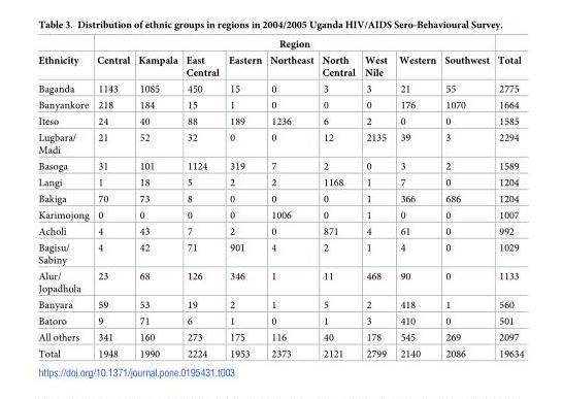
<table><thead><tr><td rowspan="2">Ethnicity</td><td colspan="9">Region</td><td rowspan="2">Total</td></tr><tr><td>Central</td><td>Kampala</td><td>East Central</td><td>Eastern</td><td>Northeast</td><td>North Central</td><td>West Nile</td><td>Western</td><td>Southwest</td></tr></thead><tbody><tr><td>Baganda</td><td>1143</td><td>1085</td><td>450</td><td>15</td><td>0</td><td>3</td><td>3</td><td>21</td><td>55</td><td>2775</td></tr><tr><td>Banyankore</td><td>218</td><td>184</td><td>15</td><td>1</td><td>0</td><td>0</td><td>0</td><td>176</td><td>1070</td><td>1664</td></tr><tr><td>Iteso</td><td>24</td><td>40</td><td>88</td><td>189</td><td>1236</td><td>6</td><td>2</td><td>0</td><td>0</td><td>1585</td></tr><tr><td>Lugbara/ Madi</td><td>21</td><td>52</td><td>32</td><td>0</td><td>0</td><td>12</td><td>2135</td><td>39</td><td>3</td><td>2294</td></tr><tr><td>Basoga</td><td>31</td><td>101</td><td>1124</td><td>319</td><td>7</td><td>2</td><td>0</td><td>3</td><td>2</td><td>1589</td></tr><tr><td>Langi</td><td>1</td><td>18</td><td>5</td><td>2</td><td>2</td><td>1168</td><td>1</td><td>7</td><td>0</td><td>1204</td></tr><tr><td>Bakiga</td><td>70</td><td>73</td><td>8</td><td>0</td><td>0</td><td>0</td><td>1</td><td>366</td><td>686</td><td>1204</td></tr><tr><td>Karimojong</td><td>0</td><td>0</td><td>0</td><td>0</td><td>1006</td><td>0</td><td>1</td><td>0</td><td>0</td><td>1007</td></tr><tr><td>Acholi</td><td>4</td><td>43</td><td>7</td><td>2</td><td>0</td><td>871</td><td>4</td><td>61</td><td>0</td><td>992</td></tr><tr><td>Bagisu/ Sabiny</td><td>4</td><td>42</td><td>71</td><td>901</td><td>4</td><td>2</td><td>1</td><td>4</td><td>0</td><td>1029</td></tr><tr><td>Alur/ Jopadhola</td><td>23</td><td>68</td><td>126</td><td>346</td><td>1</td><td>11</td><td>468</td><td>90</td><td>0</td><td>1133</td></tr><tr><td>Banyara</td><td>59</td><td>53</td><td>19</td><td>2</td><td>1</td><td>5</td><td>2</td><td>418</td><td>1</td><td>560</td></tr><tr><td>Batoro</td><td>9</td><td>71</td><td>6</td><td>1</td><td>0</td><td>1</td><td>3</td><td>410</td><td>0</td><td>501</td></tr><tr><td>All others</td><td>341</td><td>160</td><td>273</td><td>175</td><td>116</td><td>40</td><td>178</td><td>545</td><td>269</td><td>2097</td></tr><tr><td>Total</td><td>1948</td><td>1990</td><td>2224</td><td>1953</td><td>2373</td><td>2121</td><td>2799</td><td>2140</td><td>2086</td><td>19634</td></tr></tbody></table>